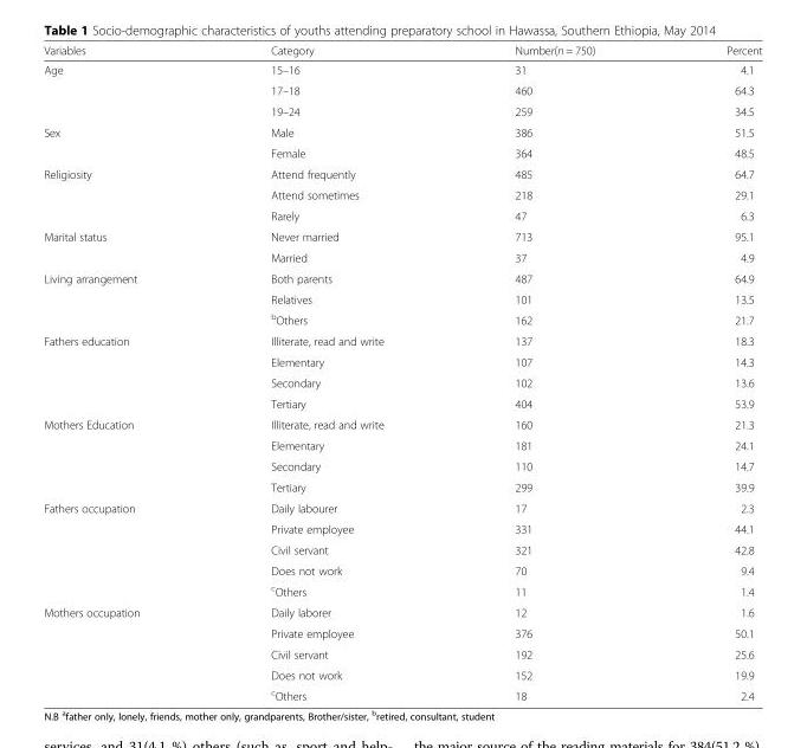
<table><thead><tr><td>Variables</td><td>Category</td><td>Number(n = 750)</td><td>Percent</td></tr></thead><tbody><tr><td rowspan="3">Age</td><td>15–16</td><td>31</td><td>4.1</td></tr><tr><td>17–18</td><td>460</td><td>64.3</td></tr><tr><td>19–24</td><td>259</td><td>34.5</td></tr><tr><td rowspan="2">Sex</td><td>Male</td><td>386</td><td>51.5</td></tr><tr><td>Female</td><td>364</td><td>48.5</td></tr><tr><td rowspan="3">Religiosity</td><td>Attend frequently</td><td>485</td><td>64.7</td></tr><tr><td>Attend sometimes</td><td>218</td><td>29.1</td></tr><tr><td>Rarely</td><td>47</td><td>6.3</td></tr><tr><td rowspan="2">Marital status</td><td>Never married</td><td>713</td><td>95.1</td></tr><tr><td>Married</td><td>37</td><td>4.9</td></tr><tr><td rowspan="3">Living arrangement</td><td>Both parents</td><td>487</td><td>64.9</td></tr><tr><td>Relatives</td><td>101</td><td>13.5</td></tr><tr><td><sup>b</sup>Others</td><td>162</td><td>21.7</td></tr><tr><td rowspan="4">Fathers education</td><td>Illiterate, read and write</td><td>137</td><td>18.3</td></tr><tr><td>Elementary</td><td>107</td><td>14.3</td></tr><tr><td>Secondary</td><td>102</td><td>13.6</td></tr><tr><td>Tertiary</td><td>404</td><td>53.9</td></tr><tr><td rowspan="4">Mothers Education</td><td>Illiterate, read and write</td><td>160</td><td>21.3</td></tr><tr><td>Elementary</td><td>181</td><td>24.1</td></tr><tr><td>Secondary</td><td>110</td><td>14.7</td></tr><tr><td>Tertiary</td><td>299</td><td>39.9</td></tr><tr><td rowspan="5">Fathers occupation</td><td>Daily labourer</td><td>17</td><td>2.3</td></tr><tr><td>Private employee</td><td>331</td><td>44.1</td></tr><tr><td>Civil servant</td><td>321</td><td>42.8</td></tr><tr><td>Does not work</td><td>70</td><td>9.4</td></tr><tr><td><sup>c</sup>Others</td><td>11</td><td>1.4</td></tr><tr><td rowspan="5">Mothers occupation</td><td>Daily laborer</td><td>12</td><td>1.6</td></tr><tr><td>Private employee</td><td>376</td><td>50.1</td></tr><tr><td>Civil servant</td><td>192</td><td>25.6</td></tr><tr><td>Does not work</td><td>152</td><td>19.9</td></tr><tr><td><sup>c</sup>Others</td><td>18</td><td>2.4</td></tr></tbody></table>